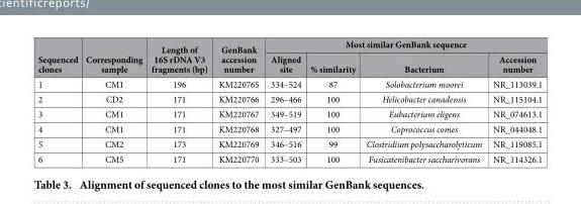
<table><thead><tr><td rowspan="2">Sequenced clones</td><td rowspan="2">Corresponding sample</td><td rowspan="2">Length of 16S rDNA V3 fragments (bp)</td><td rowspan="2">GenBank accession number</td><td colspan="4">Most similar GenBank sequence</td></tr><tr><td>Aligned site</td><td>% similarity</td><td>Bacterium</td><td>Accession number</td></tr></thead><tbody><tr><td>1</td><td>CM1</td><td>196</td><td>KM220765</td><td>334–524</td><td>87</td><td>Solobacterium moorei</td><td>NR_113039.1</td></tr><tr><td>2</td><td>CD2</td><td>171</td><td>KM220766</td><td>296–466</td><td>100</td><td>Helicobacter canadensis</td><td>NR_115104.1</td></tr><tr><td>3</td><td>CM1</td><td>171</td><td>KM220767</td><td>349–519</td><td>100</td><td>Eubacterium eligens</td><td>NR_074613.1</td></tr><tr><td>4</td><td>CM1</td><td>171</td><td>KM220768</td><td>327–497</td><td>100</td><td>Coprococcus comes</td><td>NR_044048.1</td></tr><tr><td>5</td><td>CM2</td><td>173</td><td>KM220769</td><td>346–516</td><td>99</td><td>Clostridium polysaccharolyticum</td><td>NR_119085.1</td></tr><tr><td>6</td><td>CM5</td><td>171</td><td>KM220770</td><td>333–503</td><td>100</td><td>Fusicatenibacter saccharivorans</td><td>NR_114326.1</td></tr></tbody></table>